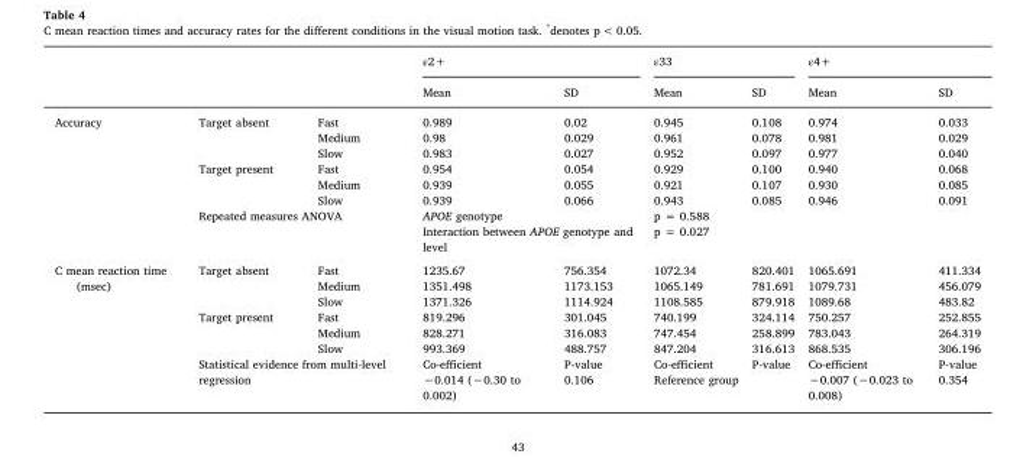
<table><thead><tr><td rowspan="2"></td><td rowspan="2"></td><td rowspan="2"></td><td colspan="2">ε2+</td><td colspan="2">ε33</td><td colspan="2">ε4+</td></tr><tr><td>Mean</td><td>SD</td><td>Mean</td><td>SD</td><td>Mean</td><td>SD</td></tr></thead><tbody><tr><td rowspan="8">Accuracy</td><td rowspan="3">Target absent</td><td>Fast</td><td>0.989</td><td>0.02</td><td>0.945</td><td>0.108</td><td>0.974</td><td>0.033</td></tr><tr><td>Medium</td><td>0.98</td><td>0.029</td><td>0.961</td><td>0.078</td><td>0.981</td><td>0.029</td></tr><tr><td>Slow</td><td>0.983</td><td>0.027</td><td>0.952</td><td>0.097</td><td>0.977</td><td>0.040</td></tr><tr><td rowspan="3">Target present</td><td>Fast</td><td>0.954</td><td>0.054</td><td>0.929</td><td>0.100</td><td>0.940</td><td>0.068</td></tr><tr><td>Medium</td><td>0.939</td><td>0.055</td><td>0.921</td><td>0.107</td><td>0.930</td><td>0.085</td></tr><tr><td>Slow</td><td>0.939</td><td>0.066</td><td>0.943</td><td>0.085</td><td>0.946</td><td>0.091</td></tr><tr><td rowspan="2" colspan="2">Repeated measures ANOVA</td><td colspan="2">APOE genotype</td><td colspan="4">p = 0.588</td></tr><tr><td colspan="2">Interaction between APOE genotype and level</td><td colspan="4">p = 0.027</td></tr><tr><td rowspan="8">C mean reaction time (msec)</td><td rowspan="3">Target absent</td><td>Fast</td><td>1235.67</td><td>756.354</td><td>1072.34</td><td>820.401</td><td>1065.691</td><td>411.334</td></tr><tr><td>Medium</td><td>1351.498</td><td>1173.153</td><td>1065.149</td><td>781.691</td><td>1079.731</td><td>456.079</td></tr><tr><td>Slow</td><td>1371.326</td><td>1114.924</td><td>1108.585</td><td>879.918</td><td>1089.68</td><td>483.82</td></tr><tr><td rowspan="3">Target present</td><td>Fast</td><td>819.296</td><td>301.045</td><td>740.199</td><td>324.114</td><td>750.257</td><td>252.855</td></tr><tr><td>Medium</td><td>828.271</td><td>316.083</td><td>747.454</td><td>258.899</td><td>783.043</td><td>264.319</td></tr><tr><td>Slow</td><td>993.369</td><td>488.757</td><td>847.204</td><td>316.613</td><td>868.535</td><td>306.196</td></tr><tr><td rowspan="2" colspan="2">Statistical evidence from multi-level regression</td><td>Co-efficient</td><td>P-value</td><td>Co-efficient</td><td>P-value</td><td>Co-efficient</td><td>P-value</td></tr><tr><td>−0.014 (−0.30 to 0.002)</td><td>0.106</td><td>Reference group</td><td></td><td>−0.007 (−0.023 to 0.008)</td><td>0.354</td></tr></tbody></table>